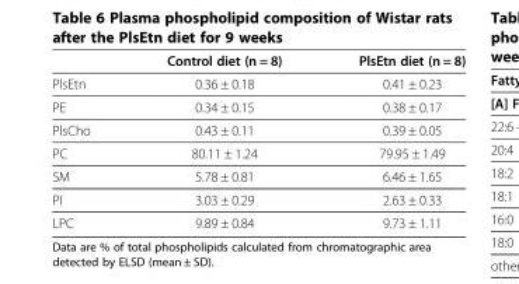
<table><thead><tr><td></td><td>Control diet (n = 8)</td><td>PlsEtn diet (n = 8)</td></tr></thead><tbody><tr><td>PlsEtn</td><td>0.36 ± 0.18</td><td>0.41 ± 0.23</td></tr><tr><td>PE</td><td>0.34 ± 0.15</td><td>0.38 ± 0.17</td></tr><tr><td>PlsCho</td><td>0.43 ± 0.11</td><td>0.39 ± 0.05</td></tr><tr><td>PC</td><td>80.11 ± 1.24</td><td>79.95 ± 1.49</td></tr><tr><td>SM</td><td>5.78 ± 0.81</td><td>6.46 ± 1.65</td></tr><tr><td>PI</td><td>3.03 ± 0.29</td><td>2.63 ± 0.33</td></tr><tr><td>LPC</td><td>9.89 ± 0.84</td><td>9.73 ± 1.11</td></tr></tbody></table>